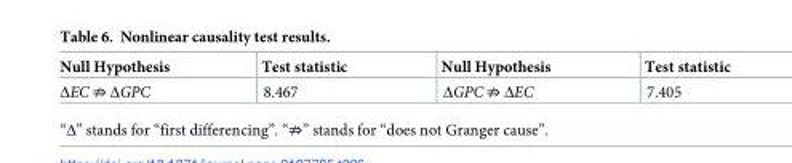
<table><thead><tr><td>Null Hypothesis</td><td>Test statistic</td><td>Null Hypothesis</td><td>Test statistic</td></tr></thead><tbody><tr><td>ΔEC ⇏ ΔGPC</td><td>8.467</td><td>ΔGPC ⇏ ΔEC</td><td>7.405</td></tr></tbody></table>